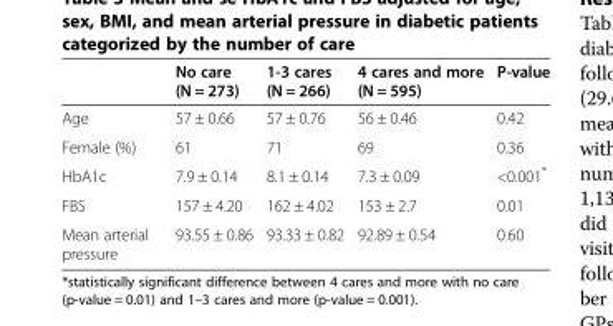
<table><thead><tr><td></td><td>No care (N = 273)</td><td>1-3 cares (N = 266)</td><td>4 cares and more (N = 595)</td><td>P-value</td></tr></thead><tbody><tr><td>Age</td><td>57 ± 0.66</td><td>57 ± 0.76</td><td>56 ± 0.46</td><td>0.42</td></tr><tr><td>Female (%)</td><td>61</td><td>71</td><td>69</td><td>0.36</td></tr><tr><td>HbA1c</td><td>7.9 ± 0.14</td><td>8.1 ± 0.14</td><td>7.3 ± 0.09</td><td>&lt;0.001*</td></tr><tr><td>FBS</td><td>157 ± 4.20</td><td>162 ± 4.02</td><td>153 ± 2.7</td><td>0.01</td></tr><tr><td>Mean arterial pressure</td><td>93.55 ± 0.86</td><td>93.33 ± 0.82</td><td>92.89 ± 0.54</td><td>0.60</td></tr></tbody></table>